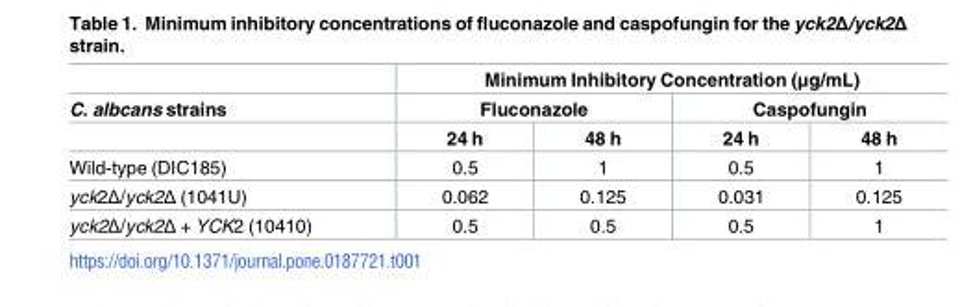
<table><thead><tr><td rowspan="3">C. albcans strains</td><td colspan="4">Minimum Inhibitory Concentration (μg/mL)</td></tr><tr><td colspan="2">Fluconazole</td><td colspan="2">Caspofungin</td></tr><tr><td>24 h</td><td>48 h</td><td>24 h</td><td>48 h</td></tr></thead><tbody><tr><td>Wild-type (DIC185)</td><td>0.5</td><td>1</td><td>0.5</td><td>1</td></tr><tr><td>yck2Δ/yck2Δ (1041U)</td><td>0.062</td><td>0.125</td><td>0.031</td><td>0.125</td></tr><tr><td>yck2Δ/yck2Δ + YCK2 (10410)</td><td>0.5</td><td>0.5</td><td>0.5</td><td>1</td></tr></tbody></table>